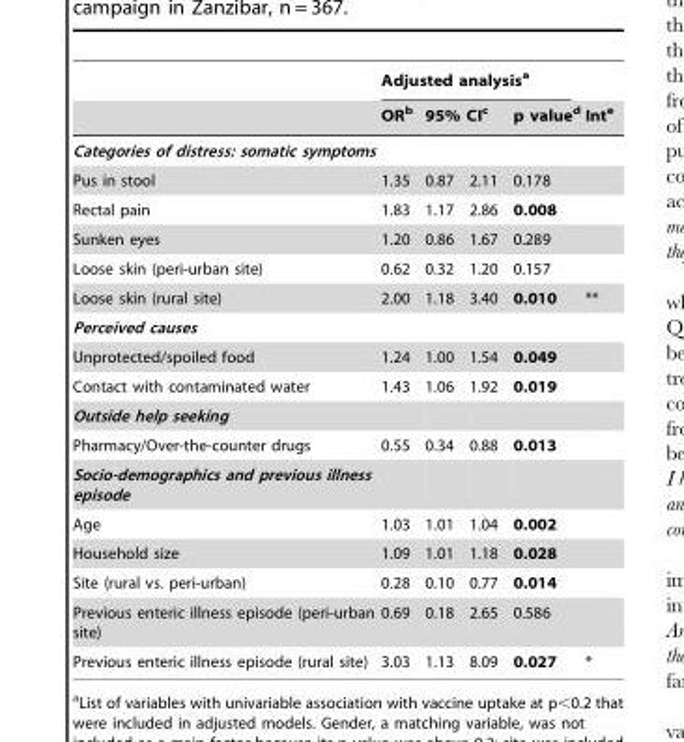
<table><thead><tr><td rowspan="3">Categories of distress: somatic symptoms</td><td colspan="4">Adjusted analysis<sup>a</sup></td><td rowspan="3">Int<sup>e</sup></td></tr><tr><td rowspan="2">OR<sup>b</sup></td><td colspan="2">95% CI<sup>c</sup></td><td rowspan="2">p value<sup>d</sup></td></tr><tr><td></td><td></td></tr></thead><tbody><tr><td>Pus in stool</td><td>1.35</td><td>0.87</td><td>2.11</td><td>0.178</td><td></td></tr><tr><td>Rectal pain</td><td>1.83</td><td>1.17</td><td>2.86</td><td>0.008</td><td></td></tr><tr><td>Sunken eyes</td><td>1.20</td><td>0.86</td><td>1.67</td><td>0.289</td><td></td></tr><tr><td>Loose skin (peri-urban site)</td><td>0.62</td><td>0.32</td><td>1.20</td><td>0.157</td><td></td></tr><tr><td>Loose skin (rural site)</td><td>2.00</td><td>1.18</td><td>3.40</td><td>0.010</td><td>**</td></tr><tr><td colspan="6">Perceived causes</td></tr><tr><td>Unprotected/spoiled food</td><td>1.24</td><td>1.00</td><td>1.54</td><td>0.049</td><td></td></tr><tr><td>Contact with contaminated water</td><td>1.43</td><td>1.06</td><td>1.92</td><td>0.019</td><td></td></tr><tr><td colspan="6">Outside help seeking</td></tr><tr><td>Pharmacy/Over-the-counter drugs</td><td>0.55</td><td>0.34</td><td>0.88</td><td>0.013</td><td></td></tr><tr><td colspan="6">Socio-demographics and previous illness episode</td></tr><tr><td>Age</td><td>1.03</td><td>1.01</td><td>1.04</td><td>0.002</td><td></td></tr><tr><td>Household size</td><td>1.09</td><td>1.01</td><td>1.18</td><td>0.028</td><td></td></tr><tr><td>Site (rural vs. peri-urban)</td><td>0.28</td><td>0.10</td><td>0.77</td><td>0.014</td><td></td></tr><tr><td>Previous enteric illness episode (peri-urban site)</td><td>0.69</td><td>0.18</td><td>2.65</td><td>0.586</td><td></td></tr><tr><td>Previous enteric illness episode (rural site)</td><td>3.03</td><td>1.13</td><td>8.09</td><td>0.027</td><td>*</td></tr></tbody></table>